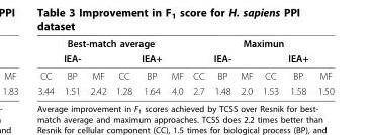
<table><thead><tr><td colspan="6">Best-match average</td><td colspan="6">Maximun</td></tr><tr><td></td><td>IEA-</td><td></td><td></td><td>IEA+</td><td></td><td></td><td>IEA-</td><td></td><td></td><td>IEA+</td><td></td></tr></thead><tbody><tr><td>CC</td><td>BP</td><td>MF</td><td>CC</td><td>BP</td><td>MF</td><td>CC</td><td>BP</td><td>MF</td><td>CC</td><td>BP</td><td>MF</td></tr><tr><td>3.44</td><td>1.51</td><td>2.42</td><td>1.28</td><td>1.64</td><td>4.0</td><td>2.7</td><td>1.48</td><td>2.0</td><td>1.53</td><td>1.58</td><td>1.50</td></tr></tbody></table>